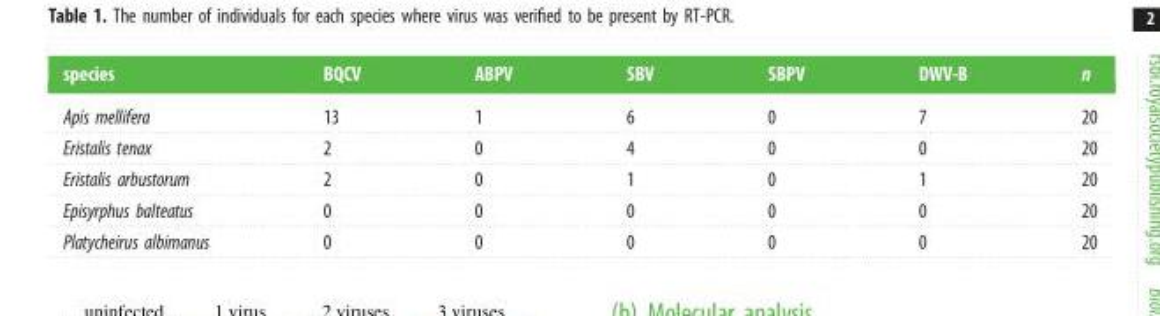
<table><thead><tr><td>species</td><td>BQCV</td><td>ABPV</td><td>SBV</td><td>SBPV</td><td>DWV-B</td><td>n</td></tr></thead><tbody><tr><td>Apis mellifera</td><td>13</td><td>1</td><td>6</td><td>0</td><td>7</td><td>20</td></tr><tr><td>Eristalis tenax</td><td>2</td><td>0</td><td>4</td><td>0</td><td>0</td><td>20</td></tr><tr><td>Eristalis arbustorum</td><td>2</td><td>0</td><td>1</td><td>0</td><td>1</td><td>20</td></tr><tr><td>Episyrphus balteatus</td><td>0</td><td>0</td><td>0</td><td>0</td><td>0</td><td>20</td></tr><tr><td>Platycheirus albimanus</td><td>0</td><td>0</td><td>0</td><td>0</td><td>0</td><td>20</td></tr></tbody></table>